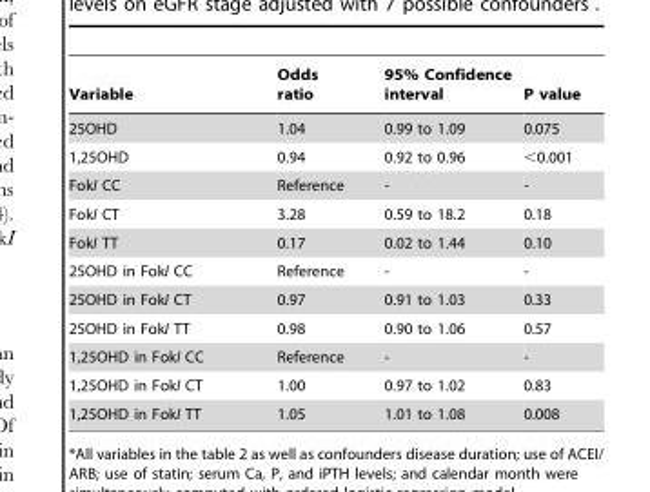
<table><thead><tr><td>Variable</td><td>Odds ratio</td><td>95% Confidence interval</td><td>P value</td></tr></thead><tbody><tr><td>25OHD</td><td>1.04</td><td>0.99 to 1.09</td><td>0.075</td></tr><tr><td>1,25OHD</td><td>0.94</td><td>0.92 to 0.96</td><td>&lt;0.001</td></tr><tr><td>FokI CC</td><td>Reference</td><td>-</td><td>-</td></tr><tr><td>FokI CT</td><td>3.28</td><td>0.59 to 18.2</td><td>0.18</td></tr><tr><td>FokI TT</td><td>0.17</td><td>0.02 to 1.44</td><td>0.10</td></tr><tr><td>25OHD in FokI CC</td><td>Reference</td><td>-</td><td>-</td></tr><tr><td>25OHD in FokI CT</td><td>0.97</td><td>0.91 to 1.03</td><td>0.33</td></tr><tr><td>25OHD in FokI TT</td><td>0.98</td><td>0.90 to 1.06</td><td>0.57</td></tr><tr><td>1,25OHD in FokI CC</td><td>Reference</td><td>-</td><td>-</td></tr><tr><td>1,25OHD in FokI CT</td><td>1.00</td><td>0.97 to 1.02</td><td>0.83</td></tr><tr><td>1,25OHD in FokI TT</td><td>1.05</td><td>1.01 to 1.08</td><td>0.008</td></tr></tbody></table>